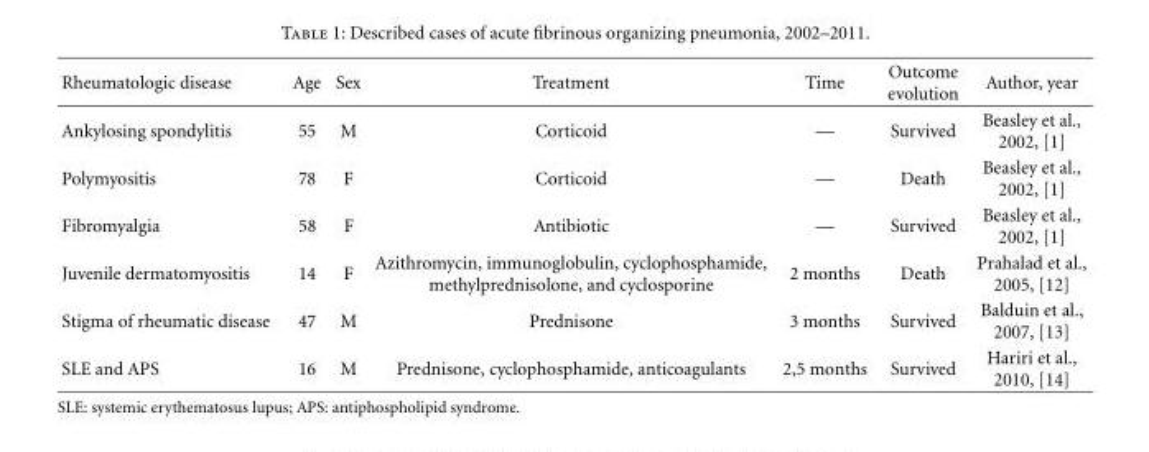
<table><thead><tr><td>Rheumatologic disease</td><td>Age</td><td>Sex</td><td>Treatment</td><td>Time</td><td>Outcome evolution</td><td>Author, year</td></tr></thead><tbody><tr><td>Ankylosing spondylitis</td><td>55</td><td>M</td><td>Corticoid</td><td>—</td><td>Survived</td><td>Beasley et al., 2002, [1]</td></tr><tr><td>Polymyositis</td><td>78</td><td>F</td><td>Corticoid</td><td>—</td><td>Death</td><td>Beasley et al., 2002, [1]</td></tr><tr><td>Fibromyalgia</td><td>58</td><td>F</td><td>Antibiotic</td><td>—</td><td>Survived</td><td>Beasley et al., 2002, [1]</td></tr><tr><td>Juvenile dermatomyositis</td><td>14</td><td>F</td><td>Azithromycin, immunoglobulin, cyclophosphamide, methylprednisolone, and cyclosporine</td><td>2 months</td><td>Death</td><td>Prahalad et al., 2005, [12]</td></tr><tr><td>Stigma of rheumatic disease</td><td>47</td><td>M</td><td>Prednisone</td><td>3 months</td><td>Survived</td><td>Balduin et al., 2007, [13]</td></tr><tr><td>SLE and APS</td><td>16</td><td>M</td><td>Prednisone, cyclophosphamide, anticoagulants</td><td>2,5 months</td><td>Survived</td><td>Hariri et al., 2010, [14]</td></tr></tbody></table>